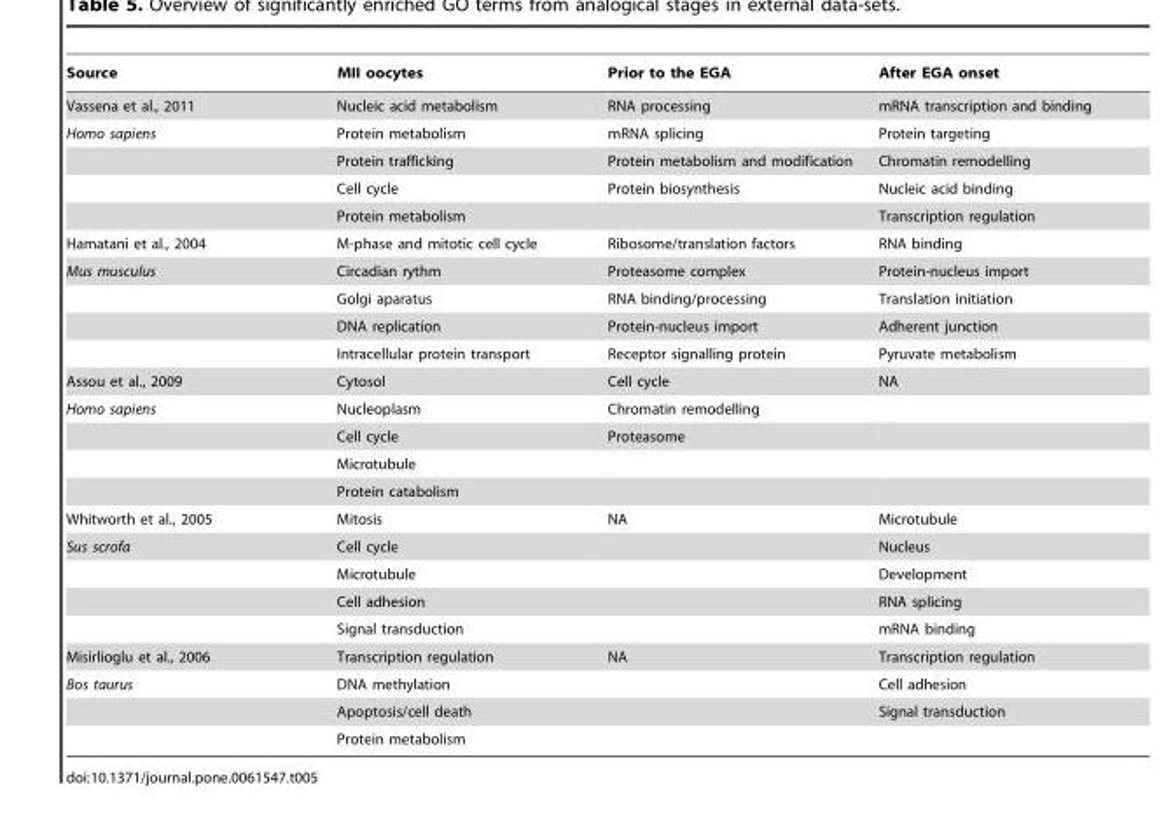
<table><thead><tr><td>Source</td><td>MII oocytes</td><td>Prior to the EGA</td><td>After EGA onset</td></tr></thead><tbody><tr><td>Vassena et al., 2011</td><td>Nucleic acid metabolism</td><td>RNA processing</td><td>mRNA transcription and binding</td></tr><tr><td rowspan="4">Homo sapiens</td><td>Protein metabolism</td><td>mRNA splicing</td><td>Protein targeting</td></tr><tr><td>Protein trafficking</td><td>Protein metabolism and modification</td><td>Chromatin remodelling</td></tr><tr><td>Cell cycle</td><td>Protein biosynthesis</td><td>Nucleic acid binding</td></tr><tr><td>Protein metabolism</td><td></td><td>Transcription regulation</td></tr><tr><td>Hamatani et al., 2004</td><td>M-phase and mitotic cell cycle</td><td>Ribosome/translation factors</td><td>RNA binding</td></tr><tr><td rowspan="4">Mus musculus</td><td>Circadian rythm</td><td>Proteasome complex</td><td>Protein-nucleus import</td></tr><tr><td>Golgi aparatus</td><td>RNA binding/processing</td><td>Translation initiation</td></tr><tr><td>DNA replication</td><td>Protein-nucleus import</td><td>Adherent junction</td></tr><tr><td>Intracellular protein transport</td><td>Receptor signalling protein</td><td>Pyruvate metabolism</td></tr><tr><td>Assou et al., 2009</td><td>Cytosol</td><td>Cell cycle</td><td>NA</td></tr><tr><td rowspan="4">Homo sapiens</td><td>Nucleoplasm</td><td>Chromatin remodelling</td><td></td></tr><tr><td>Cell cycle</td><td>Proteasome</td><td></td></tr><tr><td>Microtubule</td><td></td><td></td></tr><tr><td>Protein catabolism</td><td></td><td></td></tr><tr><td>Whitworth et al., 2005</td><td>Mitosis</td><td>NA</td><td>Microtubule</td></tr><tr><td rowspan="4">Sus scrofa</td><td>Cell cycle</td><td></td><td>Nucleus</td></tr><tr><td>Microtubule</td><td></td><td>Development</td></tr><tr><td>Cell adhesion</td><td></td><td>RNA splicing</td></tr><tr><td>Signal transduction</td><td></td><td>mRNA binding</td></tr><tr><td>Misirlioglu et al., 2006</td><td>Transcription regulation</td><td>NA</td><td>Transcription regulation</td></tr><tr><td rowspan="3">Bos taurus</td><td>DNA methylation</td><td></td><td>Cell adhesion</td></tr><tr><td>Apoptosis/cell death</td><td></td><td>Signal transduction</td></tr><tr><td>Protein metabolism</td><td></td><td></td></tr></tbody></table>